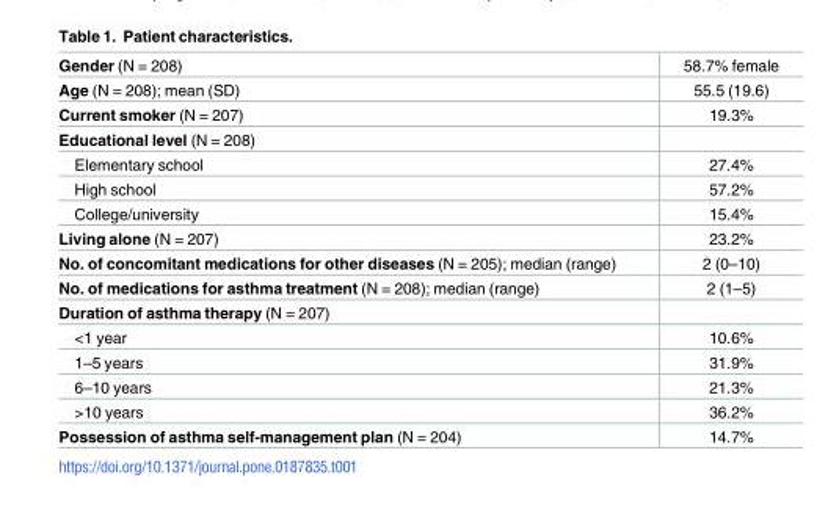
<table><tbody><tr><td>Gender (N = 208)</td><td>58.7% female</td></tr><tr><td>Age (N = 208); mean (SD)</td><td>55.5 (19.6)</td></tr><tr><td>Current smoker (N = 207)</td><td>19.3%</td></tr><tr><td colspan="2">Educational level (N = 208)</td></tr><tr><td>Elementary school</td><td>27.4%</td></tr><tr><td>High school</td><td>57.2%</td></tr><tr><td>College/university</td><td>15.4%</td></tr><tr><td>Living alone (N = 207)</td><td>23.2%</td></tr><tr><td>No. of concomitant medications for other diseases (N = 205); median (range)</td><td>2 (0–10)</td></tr><tr><td>No. of medications for asthma treatment (N = 208); median (range)</td><td>2 (1–5)</td></tr><tr><td colspan="2">Duration of asthma therapy (N = 207)</td></tr><tr><td>&lt;1 year</td><td>10.6%</td></tr><tr><td>1–5 years</td><td>31.9%</td></tr><tr><td>6–10 years</td><td>21.3%</td></tr><tr><td>&gt;10 years</td><td>36.2%</td></tr><tr><td>Possession of asthma self-management plan (N = 204)</td><td>14.7%</td></tr></tbody></table>